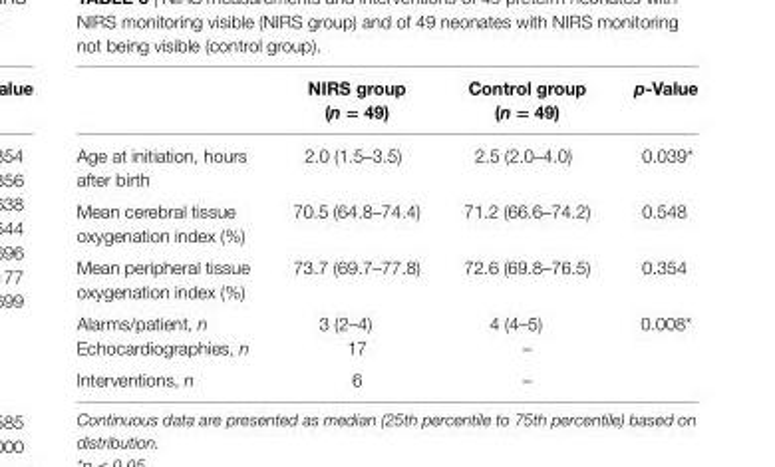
<table><thead><tr><td></td><td>nirS group (n = 49)</td><td>Control group (n = 49)</td><td>p-Value</td></tr></thead><tbody><tr><td>Age at initiation, hours after birth</td><td>2.0 (1.5–3.5)</td><td>2.5 (2.0–4.0)</td><td>0.039*</td></tr><tr><td>Mean cerebral tissue oxygenation index (%)</td><td>70.5 (64.8–74.4)</td><td>71.2 (66.6–74.2)</td><td>0.548</td></tr><tr><td>Mean peripheral tissue oxygenation index (%)</td><td>73.7 (69.7–77.8)</td><td>72.6 (69.8–76.5)</td><td>0.354</td></tr><tr><td>Alarms/patient, n</td><td>3 (2–4)</td><td>4 (4–5)</td><td>0.008*</td></tr><tr><td>Echocardiographies, n</td><td>17</td><td>–</td><td></td></tr><tr><td>Interventions, n</td><td>6</td><td>–</td><td></td></tr></tbody></table>